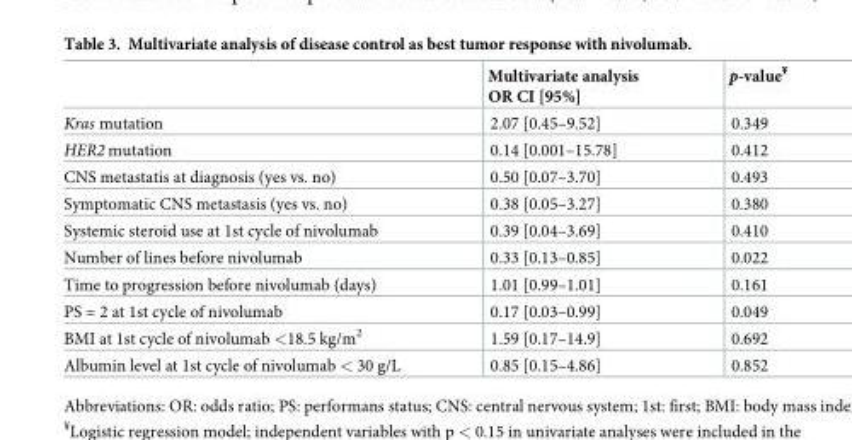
<table><thead><tr><td></td><td>Multivariate analysis OR CI [95%]</td><td>p-value<sup>¥</sup></td></tr></thead><tbody><tr><td>Kras mutation</td><td>2.07 [0.45–9.52]</td><td>0.349</td></tr><tr><td>HER2 mutation</td><td>0.14 [0.001–15.78]</td><td>0.412</td></tr><tr><td>CNS metastatis at diagnosis (yes vs. no)</td><td>0.50 [0.07–3.70]</td><td>0.493</td></tr><tr><td>Symptomatic CNS metastasis (yes vs. no)</td><td>0.38 [0.05–3.27]</td><td>0.380</td></tr><tr><td>Systemic steroid use at 1st cycle of nivolumab</td><td>0.39 [0.04–3.69]</td><td>0.410</td></tr><tr><td>Number of lines before nivolumab</td><td>0.33 [0.13–0.85]</td><td>0.022</td></tr><tr><td>Time to progression before nivolumab (days)</td><td>1.01 [0.99–1.01]</td><td>0.161</td></tr><tr><td>PS = 2 at 1st cycle of nivolumab</td><td>0.17 [0.03–0.99]</td><td>0.049</td></tr><tr><td>BMI at 1st cycle of nivolumab &lt;18.5 kg/m<sup>2</sup></td><td>1.59 [0.17–14.9]</td><td>0.692</td></tr><tr><td>Albumin level at 1st cycle of nivolumab &lt; 30 g/L</td><td>0.85 [0.15–4.86]</td><td>0.852</td></tr></tbody></table>